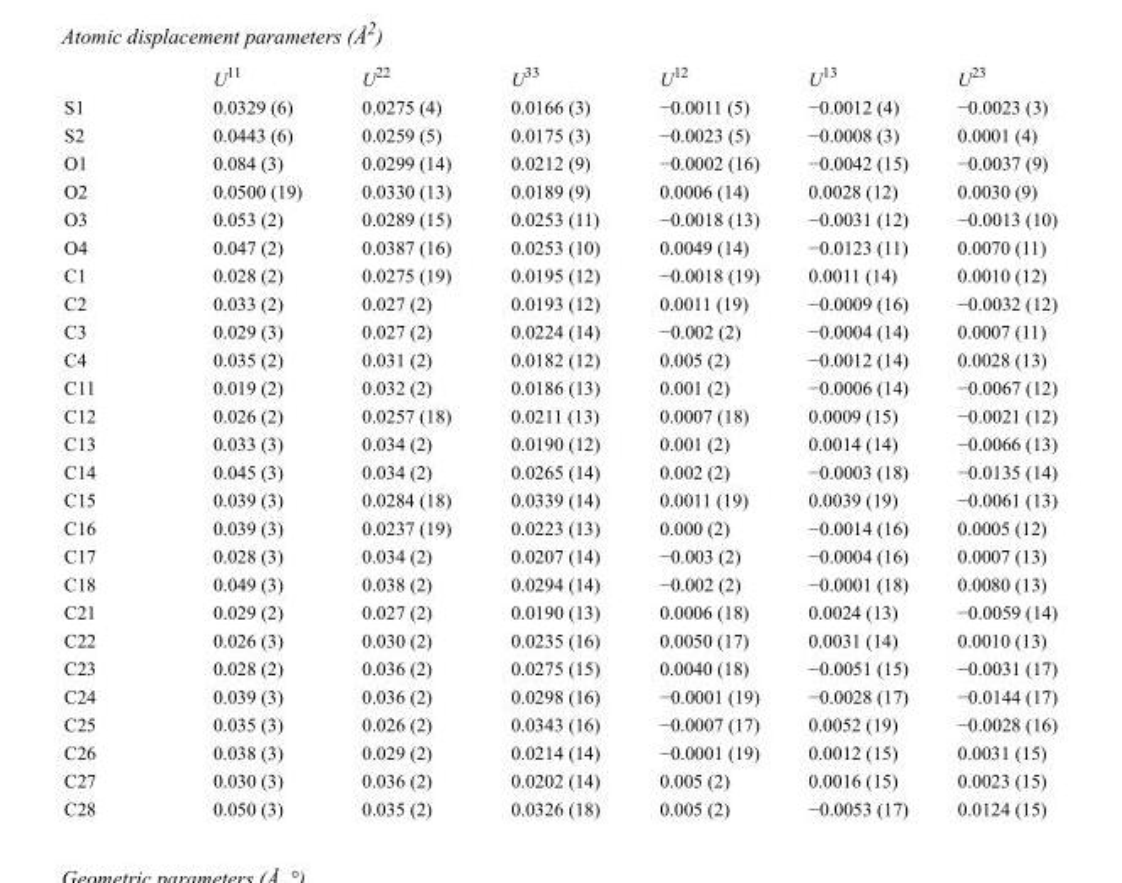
<table><thead><tr><td></td><td>U<sup>11</sup></td><td>U<sup>22</sup></td><td>U<sup>33</sup></td><td>U<sup>12</sup></td><td>U<sup>13</sup></td><td>U<sup>23</sup></td></tr></thead><tbody><tr><td>S1</td><td>0.0329 (6)</td><td>0.0275 (4)</td><td>0.0166 (3)</td><td>−0.0011 (5)</td><td>−0.0012 (4)</td><td>−0.0023 (3)</td></tr><tr><td>S2</td><td>0.0443 (6)</td><td>0.0259 (5)</td><td>0.0175 (3)</td><td>−0.0023 (5)</td><td>−0.0008 (3)</td><td>0.0001 (4)</td></tr><tr><td>O1</td><td>0.084 (3)</td><td>0.0299 (14)</td><td>0.0212 (9)</td><td>−0.0002 (16)</td><td>−0.0042 (15)</td><td>−0.0037 (9)</td></tr><tr><td>O2</td><td>0.0500 (19)</td><td>0.0330 (13)</td><td>0.0189 (9)</td><td>0.0006 (14)</td><td>0.0028 (12)</td><td>0.0030 (9)</td></tr><tr><td>O3</td><td>0.053 (2)</td><td>0.0289 (15)</td><td>0.0253 (11)</td><td>−0.0018 (13)</td><td>−0.0031 (12)</td><td>−0.0013 (10)</td></tr><tr><td>O4</td><td>0.047 (2)</td><td>0.0387 (16)</td><td>0.0253 (10)</td><td>0.0049 (14)</td><td>−0.0123 (11)</td><td>0.0070 (11)</td></tr><tr><td>C1</td><td>0.028 (2)</td><td>0.0275 (19)</td><td>0.0195 (12)</td><td>−0.0018 (19)</td><td>0.0011 (14)</td><td>0.0010 (12)</td></tr><tr><td>C2</td><td>0.033 (2)</td><td>0.027 (2)</td><td>0.0193 (12)</td><td>0.0011 (19)</td><td>−0.0009 (16)</td><td>−0.0032 (12)</td></tr><tr><td>C3</td><td>0.029 (3)</td><td>0.027 (2)</td><td>0.0224 (14)</td><td>−0.002 (2)</td><td>−0.0004 (14)</td><td>0.0007 (11)</td></tr><tr><td>C4</td><td>0.035 (2)</td><td>0.031 (2)</td><td>0.0182 (12)</td><td>0.005 (2)</td><td>−0.0012 (14)</td><td>0.0028 (13)</td></tr><tr><td>C11</td><td>0.019 (2)</td><td>0.032 (2)</td><td>0.0186 (13)</td><td>0.001 (2)</td><td>−0.0006 (14)</td><td>−0.0067 (12)</td></tr><tr><td>C12</td><td>0.026 (2)</td><td>0.0257 (18)</td><td>0.0211 (13)</td><td>0.0007 (18)</td><td>0.0009 (15)</td><td>−0.0021 (12)</td></tr><tr><td>C13</td><td>0.033 (3)</td><td>0.034 (2)</td><td>0.0190 (12)</td><td>0.001 (2)</td><td>0.0014 (14)</td><td>−0.0066 (13)</td></tr><tr><td>C14</td><td>0.045 (3)</td><td>0.034 (2)</td><td>0.0265 (14)</td><td>0.002 (2)</td><td>−0.0003 (18)</td><td>−0.0135 (14)</td></tr><tr><td>C15</td><td>0.039 (3)</td><td>0.0284 (18)</td><td>0.0339 (14)</td><td>0.0011 (19)</td><td>0.0039 (19)</td><td>−0.0061 (13)</td></tr><tr><td>C16</td><td>0.039 (3)</td><td>0.0237 (19)</td><td>0.0223 (13)</td><td>0.000 (2)</td><td>−0.0014 (16)</td><td>0.0005 (12)</td></tr><tr><td>C17</td><td>0.028 (3)</td><td>0.034 (2)</td><td>0.0207 (14)</td><td>−0.003 (2)</td><td>−0.0004 (16)</td><td>0.0007 (13)</td></tr><tr><td>C18</td><td>0.049 (3)</td><td>0.038 (2)</td><td>0.0294 (14)</td><td>−0.002 (2)</td><td>−0.0001 (18)</td><td>0.0080 (13)</td></tr><tr><td>C21</td><td>0.029 (2)</td><td>0.027 (2)</td><td>0.0190 (13)</td><td>0.0006 (18)</td><td>0.0024 (13)</td><td>−0.0059 (14)</td></tr><tr><td>C22</td><td>0.026 (3)</td><td>0.030 (2)</td><td>0.0235 (16)</td><td>0.0050 (17)</td><td>0.0031 (14)</td><td>0.0010 (13)</td></tr><tr><td>C23</td><td>0.028 (2)</td><td>0.036 (2)</td><td>0.0275 (15)</td><td>0.0040 (18)</td><td>−0.0051 (15)</td><td>−0.0031 (17)</td></tr><tr><td>C24</td><td>0.039 (3)</td><td>0.036 (2)</td><td>0.0298 (16)</td><td>−0.0001 (19)</td><td>−0.0028 (17)</td><td>−0.0144 (17)</td></tr><tr><td>C25</td><td>0.035 (3)</td><td>0.026 (2)</td><td>0.0343 (16)</td><td>−0.0007 (17)</td><td>0.0052 (19)</td><td>−0.0028 (16)</td></tr><tr><td>C26</td><td>0.038 (3)</td><td>0.029 (2)</td><td>0.0214 (14)</td><td>−0.0001 (19)</td><td>0.0012 (15)</td><td>0.0031 (15)</td></tr><tr><td>C27</td><td>0.030 (3)</td><td>0.036 (2)</td><td>0.0202 (14)</td><td>0.005 (2)</td><td>0.0016 (15)</td><td>0.0023 (15)</td></tr><tr><td>C28</td><td>0.050 (3)</td><td>0.035 (2)</td><td>0.0326 (18)</td><td>0.005 (2)</td><td>−0.0053 (17)</td><td>0.0124 (15)</td></tr></tbody></table>